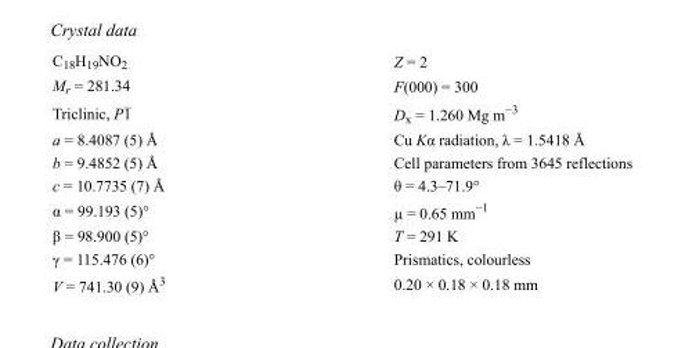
<table><tbody><tr><td>C<sub>18</sub>H<sub>19</sub>NO<sub>2</sub></td><td>Z = 2</td></tr><tr><td>M<sub>r</sub> = 281.34</td><td>F(000) = 300</td></tr><tr><td>Triclinic, P1</td><td>D<sub>x</sub> = 1.260 Mg m<sup>−3</sup></td></tr><tr><td>a = 8.4087 (5) Å</td><td>Cu Kα radiation, λ = 1.5418 Å</td></tr><tr><td>b = 9.4852 (5) Å</td><td>Cell parameters from 3645 reflections</td></tr><tr><td>c = 10.7735 (7) Å</td><td>θ = 4.3–71.9°</td></tr><tr><td>α = 99.193 (5)°</td><td>µ = 0.65 mm<sup>−1</sup></td></tr><tr><td>β = 98.900 (5)°</td><td>T = 291 K</td></tr><tr><td>γ = 115.476 (6)°</td><td>Prismatics, colourless</td></tr><tr><td>V = 741.30 (9) Å<sup>3</sup></td><td>0.20 × 0.18 × 0.18 mm</td></tr></tbody></table>